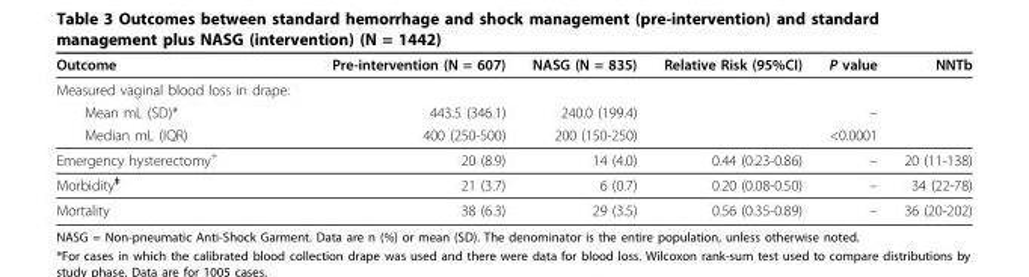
<table><thead><tr><td>Outcome</td><td>Pre-intervention (N = 607)</td><td>NASG (N = 835)</td><td>Relative Risk (95%CI)</td><td>P value</td><td>NNTb</td></tr></thead><tbody><tr><td colspan="6">Measured vaginal blood loss in drape:</td></tr><tr><td>Mean mL (SD)*</td><td>443.5 (346.1)</td><td>240.0 (199.4)</td><td></td><td>–</td><td></td></tr><tr><td>Median mL (IQR)</td><td>400 (250-500)</td><td>200 (150-250)</td><td></td><td>&lt;0.0001</td><td></td></tr><tr><td>Emergency hysterectomy<sup>+</sup></td><td>20 (8.9)</td><td>14 (4.0)</td><td>0.44 (0.23-0.86)</td><td>–</td><td>20 (11-138)</td></tr><tr><td>Morbidity<sup>‡</sup></td><td>21 (3.7)</td><td>6 (0.7)</td><td>0.20 (0.08-0.50)</td><td>–</td><td>34 (22-78)</td></tr><tr><td>Mortality</td><td>38 (6.3)</td><td>29 (3.5)</td><td>0.56 (0.35-0.89)</td><td>–</td><td>36 (20-202)</td></tr></tbody></table>